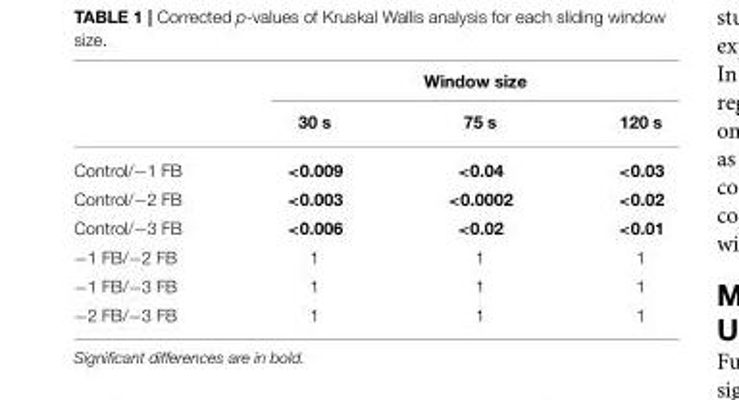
<table><thead><tr><td rowspan="2"></td><td colspan="3">Window size</td></tr><tr><td>30 s</td><td>75 s</td><td>120 s</td></tr></thead><tbody><tr><td>Control/−1 FB</td><td>&lt;0.009</td><td>&lt;0.04</td><td>&lt;0.03</td></tr><tr><td>Control/−2 FB</td><td>&lt;0.003</td><td>&lt;0.0002</td><td>&lt;0.02</td></tr><tr><td>Control/−3 FB</td><td>&lt;0.006</td><td>&lt;0.02</td><td>&lt;0.01</td></tr><tr><td>−1 FB/−2 FB</td><td>1</td><td>1</td><td>1</td></tr><tr><td>−1 FB/−3 FB</td><td>1</td><td>1</td><td>1</td></tr><tr><td>−2 FB/−3 FB</td><td>1</td><td>1</td><td>1</td></tr></tbody></table>